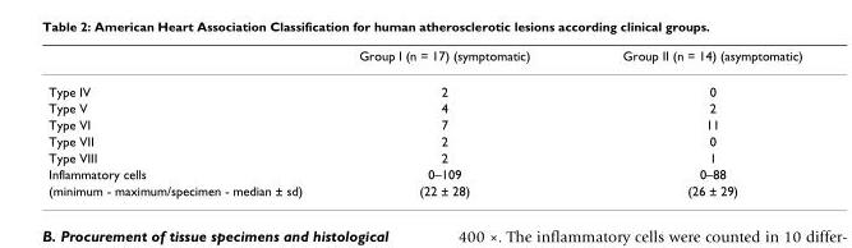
<table><thead><tr><td></td><td>Group I (n = 17) (symptomatic)</td><td>Group II (n = 14) (asymptomatic)</td></tr></thead><tbody><tr><td>Type IV</td><td>2</td><td>0</td></tr><tr><td>Type V</td><td>4</td><td>2</td></tr><tr><td>Type VI</td><td>7</td><td>11</td></tr><tr><td>Type VII</td><td>2</td><td>0</td></tr><tr><td>Type VIII</td><td>2</td><td>1</td></tr><tr><td>Inflammatory cells</td><td>0–109</td><td>0–88</td></tr><tr><td>(minimum - maximum/specimen - median ± sd)</td><td>(22 ± 28)</td><td>(26 ± 29)</td></tr></tbody></table>